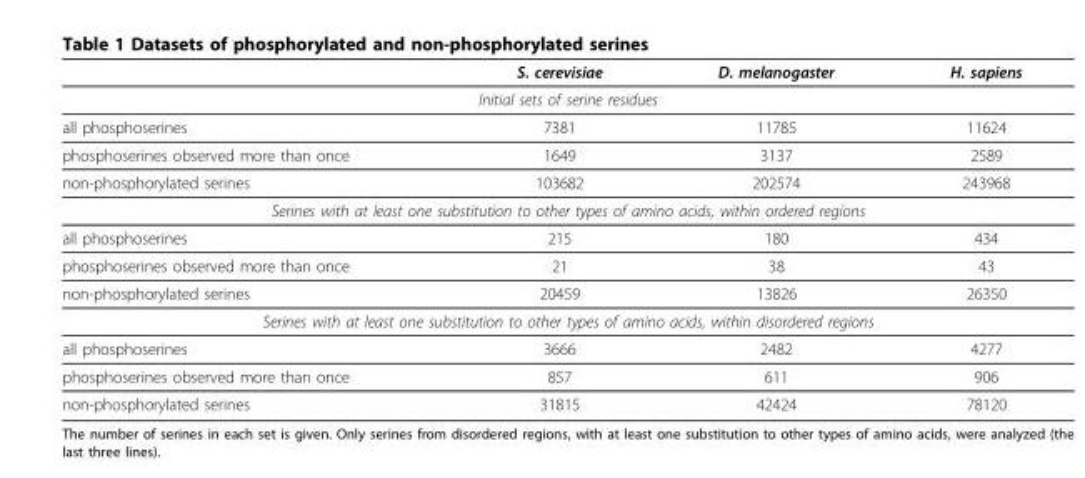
<table><thead><tr><td></td><td>S. cerevisiae</td><td>D. melanogaster</td><td>H. sapiens</td></tr></thead><tbody><tr><td colspan="4">Initial sets of serine residues</td></tr><tr><td>all phosphoserines</td><td>7381</td><td>11785</td><td>11624</td></tr><tr><td>phosphoserines observed more than once</td><td>1649</td><td>3137</td><td>2589</td></tr><tr><td>non-phosphorylated serines</td><td>103682</td><td>202574</td><td>243968</td></tr><tr><td colspan="4">Serines with at least one substitution to other types of amino acids, within ordered regions</td></tr><tr><td>all phosphoserines</td><td>215</td><td>180</td><td>434</td></tr><tr><td>phosphoserines observed more than once</td><td>21</td><td>38</td><td>43</td></tr><tr><td>non-phosphorylated serines</td><td>20459</td><td>13826</td><td>26350</td></tr><tr><td colspan="4">Serines with at least one substitution to other types of amino acids, within disordered regions</td></tr><tr><td>all phosphoserines</td><td>3666</td><td>2482</td><td>4277</td></tr><tr><td>phosphoserines observed more than once</td><td>857</td><td>611</td><td>906</td></tr><tr><td>non-phosphorylated serines</td><td>31815</td><td>42424</td><td>78120</td></tr></tbody></table>